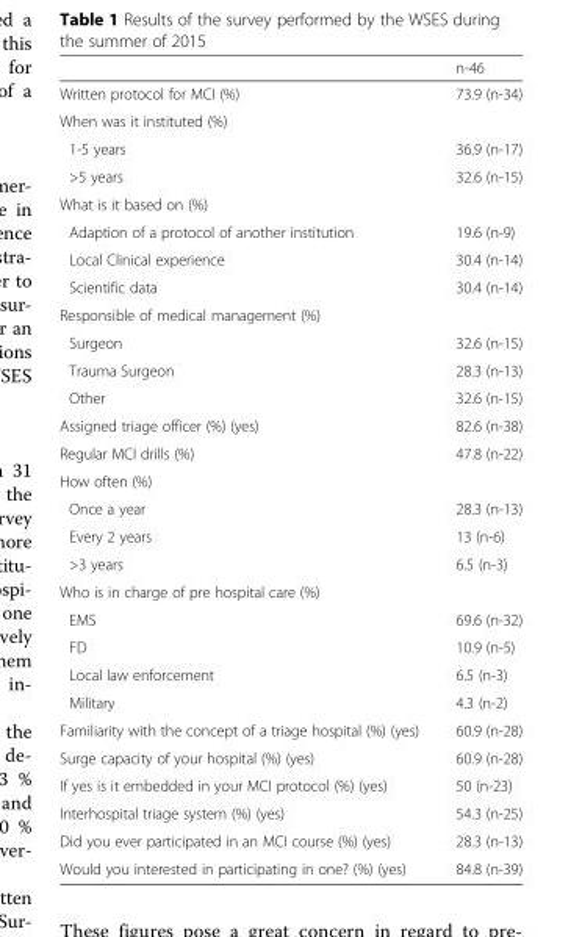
<table><thead><tr><td></td><td>n-46</td></tr></thead><tbody><tr><td>Written protocol for MCI (%)</td><td>73.9 (n-34)</td></tr><tr><td colspan="2">When was it instituted (%)</td></tr><tr><td>1-5 years</td><td>36.9 (n-17)</td></tr><tr><td>&gt;5 years</td><td>32.6 (n-15)</td></tr><tr><td colspan="2">What is it based on (%)</td></tr><tr><td>Adaption of a protocol of another institution</td><td>19.6 (n-9)</td></tr><tr><td>Local Clinical experience</td><td>30.4 (n-14)</td></tr><tr><td>Scientific data</td><td>30.4 (n-14)</td></tr><tr><td colspan="2">Responsible of medical management (%)</td></tr><tr><td>Surgeon</td><td>32.6 (n-15)</td></tr><tr><td>Trauma Surgeon</td><td>28.3 (n-13)</td></tr><tr><td>Other</td><td>32.6 (n-15)</td></tr><tr><td>Assigned triage officer (%) (yes)</td><td>82.6 (n-38)</td></tr><tr><td>Regular MCI drills (%)</td><td>47.8 (n-22)</td></tr><tr><td colspan="2">How often (%)</td></tr><tr><td>Once a year</td><td>28.3 (n-13)</td></tr><tr><td>Every 2 years</td><td>13 (n-6)</td></tr><tr><td>&gt;3 years</td><td>6.5 (n-3)</td></tr><tr><td colspan="2">Who is in charge of pre hospital care (%)</td></tr><tr><td>EMS</td><td>69.6 (n-32)</td></tr><tr><td>FD</td><td>10.9 (n-5)</td></tr><tr><td>Local law enforcement</td><td>6.5 (n-3)</td></tr><tr><td>Military</td><td>4.3 (n-2)</td></tr><tr><td>Familiarity with the concept of a triage hospital (%) (yes)</td><td>60.9 (n-28)</td></tr><tr><td>Surge capacity of your hospital (%) (yes)</td><td>60.9 (n-28)</td></tr><tr><td>If yes is it embedded in your MCI protocol (%) (yes)</td><td>50 (n-23)</td></tr><tr><td>Interhospital triage system (%) (yes)</td><td>54.3 (n-25)</td></tr><tr><td>Did you ever participated in an MCI course (%) (yes)</td><td>28.3 (n-13)</td></tr><tr><td>Would you interested in participating in one? (%) (yes)</td><td>84.8 (n-39)</td></tr></tbody></table>